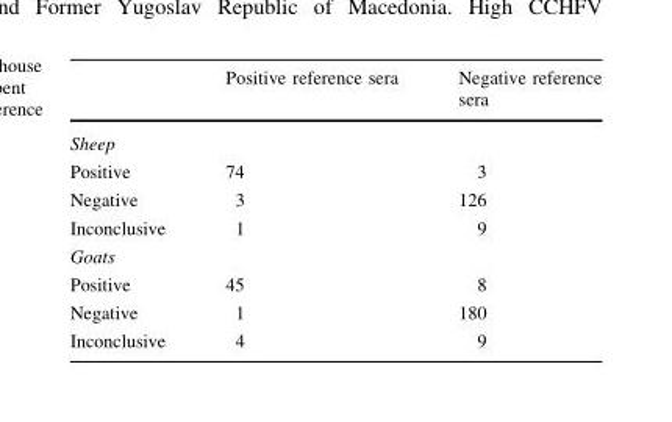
<table><thead><tr><td></td><td>Positive reference sera</td><td>Negative reference sera</td></tr></thead><tbody><tr><td colspan="3">Sheep</td></tr><tr><td>Positive</td><td>74</td><td>3</td></tr><tr><td>Negative</td><td>3</td><td>126</td></tr><tr><td>Inconclusive</td><td>1</td><td>9</td></tr><tr><td colspan="3">Goats</td></tr><tr><td>Positive</td><td>45</td><td>8</td></tr><tr><td>Negative</td><td>1</td><td>180</td></tr><tr><td>Inconclusive</td><td>4</td><td>9</td></tr></tbody></table>